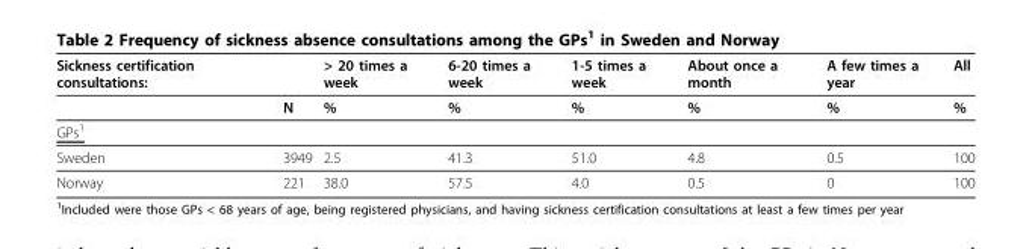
<table><thead><tr><td>Sickness certification consultations:</td><td></td><td>&gt; 20 times a week</td><td>6-20 times a week</td><td>1-5 times a week</td><td>About once a month</td><td>A few times a year</td><td>All</td></tr></thead><tbody><tr><td></td><td>N</td><td>%</td><td>%</td><td>%</td><td>%</td><td>%</td><td>%</td></tr><tr><td colspan="8">GPs<sup>1</sup></td></tr><tr><td>Sweden</td><td>3949</td><td>2.5</td><td>41.3</td><td>51.0</td><td>4.8</td><td>0.5</td><td>100</td></tr><tr><td>Norway</td><td>221</td><td>38.0</td><td>57.5</td><td>4.0</td><td>0.5</td><td>0</td><td>100</td></tr></tbody></table>